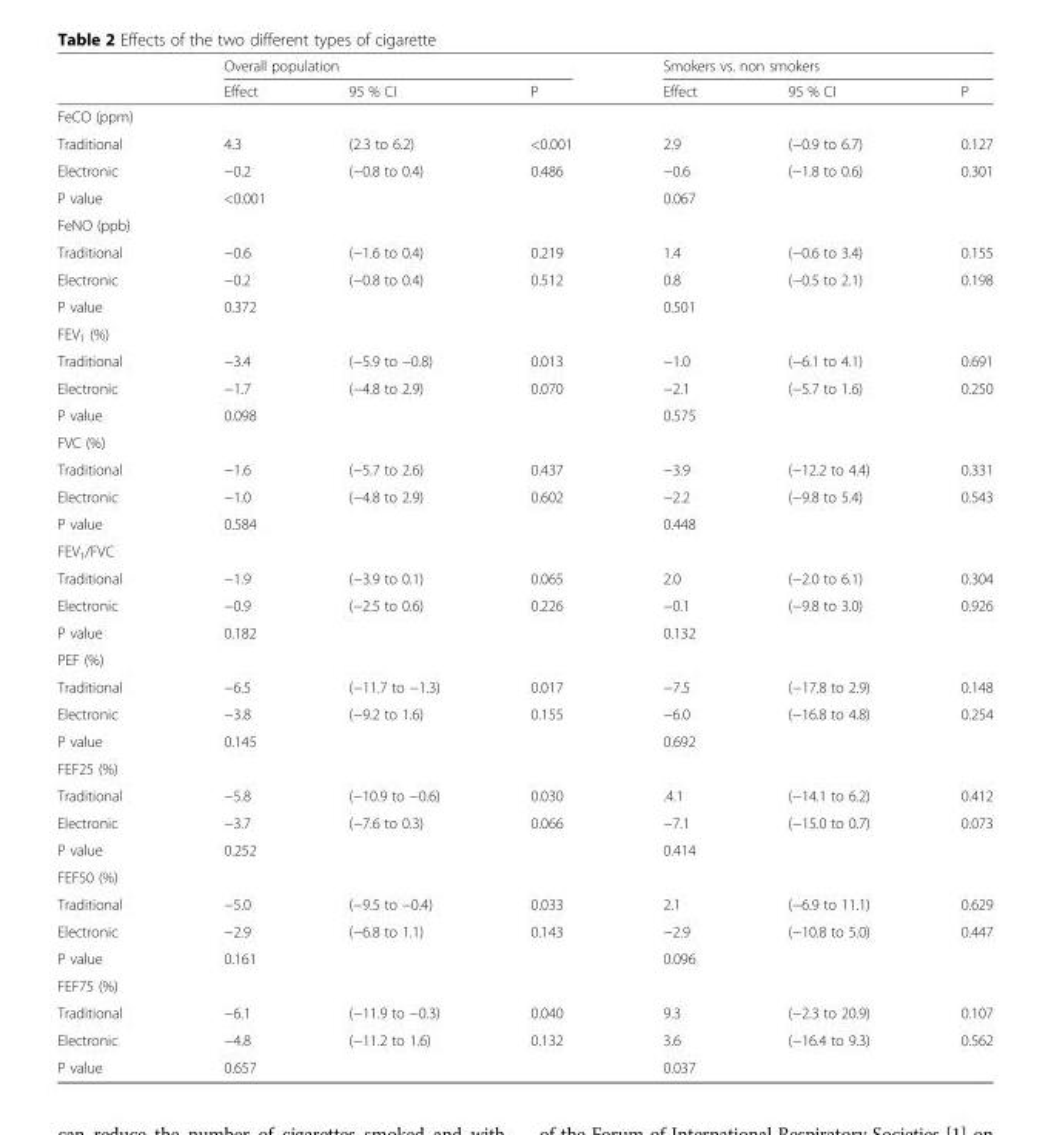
<table><thead><tr><td rowspan="2"></td><td colspan="3">Overall population</td><td colspan="3">Smokers vs. non smokers</td></tr><tr><td>Effect</td><td>95 % CI</td><td>P</td><td>Effect</td><td>95 % CI</td><td>P</td></tr></thead><tbody><tr><td colspan="7">FeCO (ppm)</td></tr><tr><td>Traditional</td><td>4.3</td><td>(2.3 to 6.2)</td><td>&lt;0.001</td><td>2.9</td><td>(−0.9 to 6.7)</td><td>0.127</td></tr><tr><td>Electronic</td><td>−0.2</td><td>(−0.8 to 0.4)</td><td>0.486</td><td>−0.6</td><td>(−1.8 to 0.6)</td><td>0.301</td></tr><tr><td>P value</td><td colspan="3">&lt;0.001</td><td colspan="3">0.067</td></tr><tr><td colspan="7">FeNO (ppb)</td></tr><tr><td>Traditional</td><td>−0.6</td><td>(−1.6 to 0.4)</td><td>0.219</td><td>1.4</td><td>(−0.6 to 3.4)</td><td>0.155</td></tr><tr><td>Electronic</td><td>−0.2</td><td>(−0.8 to 0.4)</td><td>0.512</td><td>0.8</td><td>(−0.5 to 2.1)</td><td>0.198</td></tr><tr><td>P value</td><td colspan="3">0.372</td><td colspan="3">0.501</td></tr><tr><td colspan="7">FEV<sub>1</sub> (%)</td></tr><tr><td>Traditional</td><td>−3.4</td><td>(−5.9 to −0.8)</td><td>0.013</td><td>−1.0</td><td>(−6.1 to 4.1)</td><td>0.691</td></tr><tr><td>Electronic</td><td>−1.7</td><td>(−4.8 to 2.9)</td><td>0.070</td><td>−2.1</td><td>(−5.7 to 1.6)</td><td>0.250</td></tr><tr><td>P value</td><td colspan="3">0.098</td><td colspan="3">0.575</td></tr><tr><td colspan="7">FVC (%)</td></tr><tr><td>Traditional</td><td>−1.6</td><td>(−5.7 to 2.6)</td><td>0.437</td><td>−3.9</td><td>(−12.2 to 4.4)</td><td>0.331</td></tr><tr><td>Electronic</td><td>−1.0</td><td>(−4.8 to 2.9)</td><td>0.602</td><td>−2.2</td><td>(−9.8 to 5.4)</td><td>0.543</td></tr><tr><td>P value</td><td colspan="3">0.584</td><td colspan="3">0.448</td></tr><tr><td colspan="7">FEV<sub>1</sub>/FVC</td></tr><tr><td>Traditional</td><td>−1.9</td><td>(−3.9 to 0.1)</td><td>0.065</td><td>2.0</td><td>(−2.0 to 6.1)</td><td>0.304</td></tr><tr><td>Electronic</td><td>−0.9</td><td>(−2.5 to 0.6)</td><td>0.226</td><td>−0.1</td><td>(−9.8 to 3.0)</td><td>0.926</td></tr><tr><td>P value</td><td colspan="3">0.182</td><td colspan="3">0.132</td></tr><tr><td colspan="7">PEF (%)</td></tr><tr><td>Traditional</td><td>−6.5</td><td>(−11.7 to −1.3)</td><td>0.017</td><td>−7.5</td><td>(−17.8 to 2.9)</td><td>0.148</td></tr><tr><td>Electronic</td><td>−3.8</td><td>(−9.2 to 1.6)</td><td>0.155</td><td>−6.0</td><td>(−16.8 to 4.8)</td><td>0.254</td></tr><tr><td>P value</td><td colspan="3">0.145</td><td colspan="3">0.692</td></tr><tr><td colspan="7">FEF25 (%)</td></tr><tr><td>Traditional</td><td>−5.8</td><td>(−10.9 to −0.6)</td><td>0.030</td><td>.4.1</td><td>(−14.1 to 6.2)</td><td>0.412</td></tr><tr><td>Electronic</td><td>−3.7</td><td>(−7.6 to 0.3)</td><td>0.066</td><td>−7.1</td><td>(−15.0 to 0.7)</td><td>0.073</td></tr><tr><td>P value</td><td colspan="3">0.252</td><td colspan="3">0.414</td></tr><tr><td colspan="7">FEF50 (%)</td></tr><tr><td>Traditional</td><td>−5.0</td><td>(−9.5 to −0.4)</td><td>0.033</td><td>2.1</td><td>(−6.9 to 11.1)</td><td>0.629</td></tr><tr><td>Electronic</td><td>−2.9</td><td>(−6.8 to 1.1)</td><td>0.143</td><td>−2.9</td><td>(−10.8 to 5.0)</td><td>0.447</td></tr><tr><td>P value</td><td colspan="3">0.161</td><td colspan="3">0.096</td></tr><tr><td colspan="7">FEF75 (%)</td></tr><tr><td>Traditional</td><td>−6.1</td><td>(−11.9 to −0.3)</td><td>0.040</td><td>9.3</td><td>(−2.3 to 20.9)</td><td>0.107</td></tr><tr><td>Electronic</td><td>−4.8</td><td>(−11.2 to 1.6)</td><td>0.132</td><td>3.6</td><td>(−16.4 to 9.3)</td><td>0.562</td></tr><tr><td>P value</td><td colspan="3">0.657</td><td colspan="3">0.037</td></tr></tbody></table>